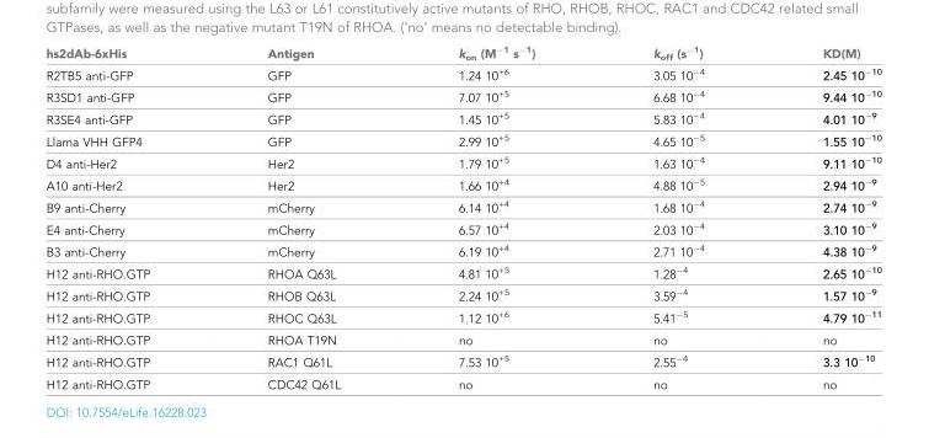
<table><thead><tr><td>hs2dAb-6xHis</td><td>Antigen</td><td>k<sub>on</sub> (M<sup>−1</sup> s<sup>−1</sup>)</td><td>k<sub>off</sub> (s<sup>−1</sup>)</td><td>KD(M)</td></tr></thead><tbody><tr><td>R2TB5 anti-GFP</td><td>GFP</td><td>1.24 10<sup>+6</sup></td><td>3.05 10<sup>−4</sup></td><td>2.45 10<sup>−10</sup></td></tr><tr><td>R3SD1 anti-GFP</td><td>GFP</td><td>7.07 10<sup>+5</sup></td><td>6.68 10<sup>−4</sup></td><td>9.44 10<sup>−10</sup></td></tr><tr><td>R3SE4 anti-GFP</td><td>GFP</td><td>1.45 10<sup>+5</sup></td><td>5.83 10<sup>−4</sup></td><td>4.01 10<sup>−9</sup></td></tr><tr><td>Llama VHH GFP4</td><td>GFP</td><td>2.99 10<sup>+5</sup></td><td>4.65 10<sup>−5</sup></td><td>1.55 10<sup>−10</sup></td></tr><tr><td>D4 anti-Her2</td><td>Her2</td><td>1.79 10<sup>+5</sup></td><td>1.63 10<sup>−4</sup></td><td>9.11 10<sup>−10</sup></td></tr><tr><td>A10 anti-Her2</td><td>Her2</td><td>1.66 10<sup>+4</sup></td><td>4.88 10<sup>−5</sup></td><td>2.94 10<sup>−9</sup></td></tr><tr><td>B9 anti-Cherry</td><td>mCherry</td><td>6.14 10<sup>+4</sup></td><td>1.68 10<sup>−4</sup></td><td>2.74 10<sup>−9</sup></td></tr><tr><td>E4 anti-Cherry</td><td>mCherry</td><td>6.57 10<sup>+4</sup></td><td>2.03 10<sup>−4</sup></td><td>3.10 10<sup>−9</sup></td></tr><tr><td>B3 anti-Cherry</td><td>mCherry</td><td>6.19 10<sup>+4</sup></td><td>2.71 10<sup>−4</sup></td><td>4.38 10<sup>−9</sup></td></tr><tr><td>H12 anti-RHO.GTP</td><td>RHOA Q63L</td><td>4.81 10<sup>+5</sup></td><td>1.28<sup>−4</sup></td><td>2.65 10<sup>−10</sup></td></tr><tr><td>H12 anti-RHO.GTP</td><td>RHOB Q63L</td><td>2.24 10<sup>+5</sup></td><td>3.59<sup>−4</sup></td><td>1.57 10<sup>−9</sup></td></tr><tr><td>H12 anti-RHO.GTP</td><td>RHOC Q63L</td><td>1.12 10<sup>+6</sup></td><td>5.41<sup>−5</sup></td><td>4.79 10<sup>−11</sup></td></tr><tr><td>H12 anti-RHO.GTP</td><td>RHOA T19N</td><td>no</td><td>no</td><td>no</td></tr><tr><td>H12 anti-RHO.GTP</td><td>RAC1 Q61L</td><td>7.53 10<sup>+5</sup></td><td>2.55<sup>−4</sup></td><td>3.3 10<sup>−10</sup></td></tr><tr><td>H12 anti-RHO.GTP</td><td>CDC42 Q61L</td><td>no</td><td>no</td><td>no</td></tr></tbody></table>